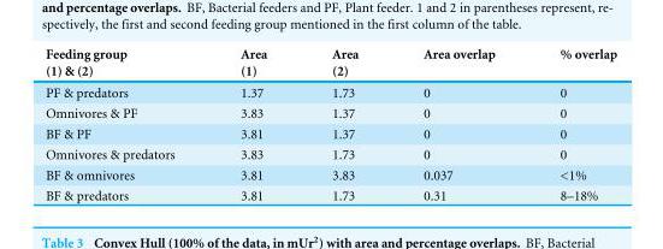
<table><thead><tr><td rowspan="2">Feeding group (1) &amp; (2)</td><td rowspan="2">Area (1)</td><td rowspan="2">Area (2)</td><td rowspan="2">Area overlap</td><td rowspan="2">% overlap</td></tr><tr></tr></thead><tbody><tr><td>PF &amp; predators</td><td>1.37</td><td>1.73</td><td>0</td><td>0</td></tr><tr><td>Omnivores &amp; PF</td><td>3.83</td><td>1.37</td><td>0</td><td>0</td></tr><tr><td>BF &amp; PF</td><td>3.81</td><td>1.37</td><td>0</td><td>0</td></tr><tr><td>Omnivores &amp; predators</td><td>3.83</td><td>1.73</td><td>0</td><td>0</td></tr><tr><td>BF &amp; omnivores</td><td>3.81</td><td>3.83</td><td>0.037</td><td>&lt;1%</td></tr><tr><td>BF &amp; predators</td><td>3.81</td><td>1.73</td><td>0.31</td><td>8–18%</td></tr></tbody></table>